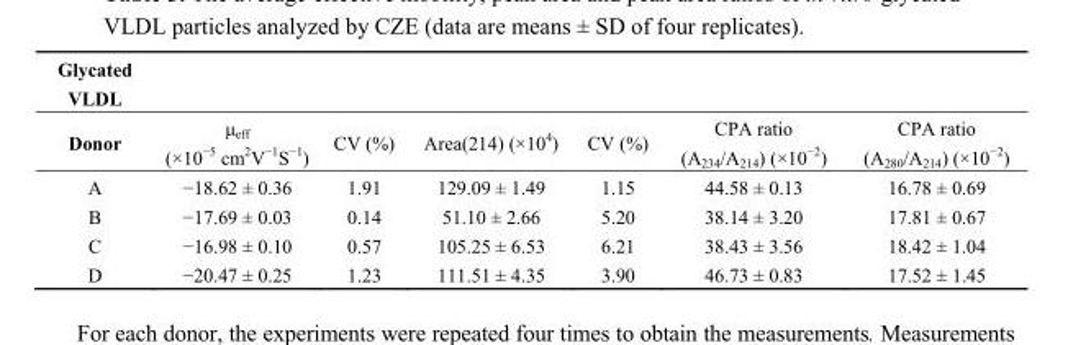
<table><thead><tr><td rowspan="2">Glycated VLDL Donor</td><td rowspan="2">μ<sub>eff</sub> (×10<sup>−5</sup> cm<sup>2</sup>V<sup>−1</sup>S<sup>−1</sup>)</td><td rowspan="2">CV (%)</td><td rowspan="2">Area(214) (×10<sup>4</sup>)</td><td rowspan="2">CV (%)</td><td rowspan="2">CPA ratio (A<sub>234</sub>/A<sub>214</sub>) (×10<sup>−2</sup>)</td><td rowspan="2">CPA ratio (A<sub>280</sub>/A<sub>214</sub>) (×10<sup>−2</sup>)</td></tr><tr></tr></thead><tbody><tr><td>A</td><td>−18.62 ± 0.36</td><td>1.91</td><td>129.09 ± 1.49</td><td>1.15</td><td>44.58 ± 0.13</td><td>16.78 ± 0.69</td></tr><tr><td>B</td><td>−17.69 ± 0.03</td><td>0.14</td><td>51.10 ± 2.66</td><td>5.20</td><td>38.14 ± 3.20</td><td>17.81 ± 0.67</td></tr><tr><td>C</td><td>−16.98 ± 0.10</td><td>0.57</td><td>105.25 ± 6.53</td><td>6.21</td><td>38.43 ± 3.56</td><td>18.42 ± 1.04</td></tr><tr><td>D</td><td>−20.47 ± 0.25</td><td>1.23</td><td>111.51 ± 4.35</td><td>3.90</td><td>46.73 ± 0.83</td><td>17.52 ± 1.45</td></tr></tbody></table>